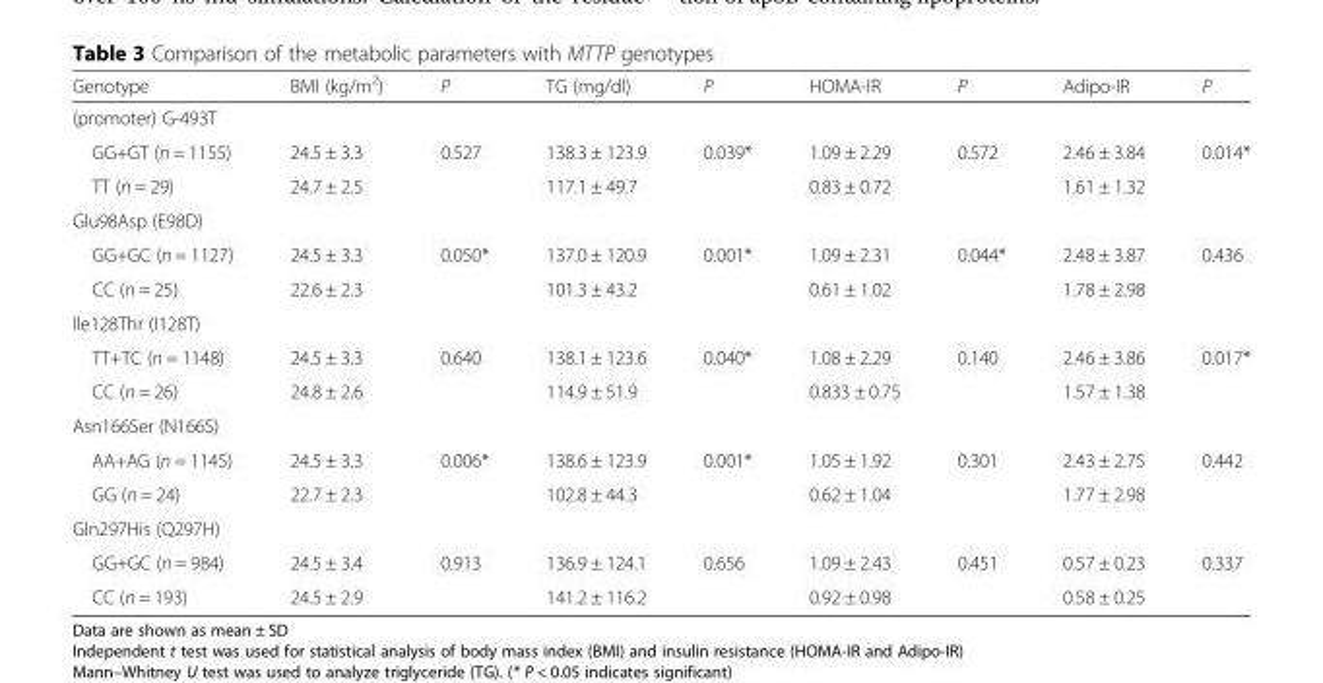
<table><thead><tr><td>Genotype</td><td>BMI (kg/m<sup>2</sup>)</td><td>P</td><td>TG (mg/dl)</td><td>P</td><td>HOMA-IR</td><td>P</td><td>Adipo-IR</td><td>P</td></tr></thead><tbody><tr><td colspan="9">(promoter) G-493T</td></tr><tr><td>GG+GT (n = 1155)</td><td>24.5 ± 3.3</td><td>0.527</td><td>138.3 ± 123.9</td><td>0.039*</td><td>1.09 ± 2.29</td><td>0.572</td><td>2.46 ± 3.84</td><td>0.014*</td></tr><tr><td>TT (n = 29)</td><td>24.7 ± 2.5</td><td></td><td>117.1 ± 49.7</td><td></td><td>0.83 ± 0.72</td><td></td><td>1.61 ± 1.32</td><td></td></tr><tr><td colspan="9">Glu98Asp (E98D)</td></tr><tr><td>GG+GC (n = 1127)</td><td>24.5 ± 3.3</td><td>0.050*</td><td>137.0 ± 120.9</td><td>0.001*</td><td>1.09 ± 2.31</td><td>0.044*</td><td>2.48 ± 3.87</td><td>0.436</td></tr><tr><td>CC (n = 25)</td><td>22.6 ± 2.3</td><td></td><td>101.3 ± 43.2</td><td></td><td>0.61 ± 1.02</td><td></td><td>1.78 ± 2.98</td><td></td></tr><tr><td colspan="9">Ile128Thr (I128T)</td></tr><tr><td>TT+TC (n = 1148)</td><td>24.5 ± 3.3</td><td>0.640</td><td>138.1 ± 123.6</td><td>0.040*</td><td>1.08 ± 2.29</td><td>0.140</td><td>2.46 ± 3.86</td><td>0.017*</td></tr><tr><td>CC (n = 26)</td><td>24.8 ± 2.6</td><td></td><td>114.9 ± 51.9</td><td></td><td>0.833 ± 0.75</td><td></td><td>1.57 ± 1.38</td><td></td></tr><tr><td colspan="9">Asn166Ser (N166S)</td></tr><tr><td>AA+AG (n = 1145)</td><td>24.5 ± 3.3</td><td>0.006*</td><td>138.6 ± 123.9</td><td>0.001*</td><td>1.05 ± 1.92</td><td>0.301</td><td>2.43 ± 2.75</td><td>0.442</td></tr><tr><td>GG (n = 24)</td><td>22.7 ± 2.3</td><td></td><td>102.8 ± 44.3</td><td></td><td>0.62 ± 1.04</td><td></td><td>1.77 ± 2.98</td><td></td></tr><tr><td colspan="9">Gln297His (Q297H)</td></tr><tr><td>GG+GC (n = 984)</td><td>24.5 ± 3.4</td><td>0.913</td><td>136.9 ± 124.1</td><td>0.656</td><td>1.09 ± 2.43</td><td>0.451</td><td>0.57 ± 0.23</td><td>0.337</td></tr><tr><td>CC (n = 193)</td><td>24.5 ± 2.9</td><td></td><td>141.2 ± 116.2</td><td></td><td>0.92 ± 0.98</td><td></td><td>0.58 ± 0.25</td><td></td></tr></tbody></table>